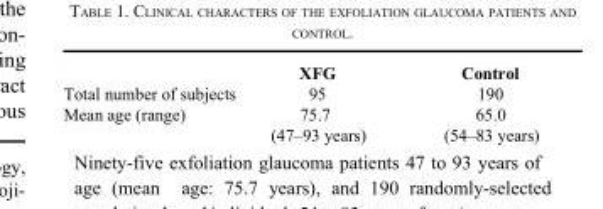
<table><thead><tr><td></td><td>XFG</td><td>Control</td></tr></thead><tbody><tr><td>Total number of subjects</td><td>95</td><td>190</td></tr><tr><td>Mean age (range)</td><td>75.7 (47–93 years)</td><td>65.0 (54–83 years)</td></tr></tbody></table>